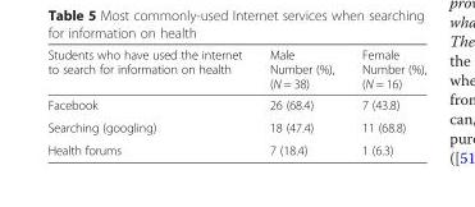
<table><thead><tr><td>Students who have used the internet to search for information on health</td><td>Male Number (%), (N = 38)</td><td>Female Number (%), (N = 16)</td></tr></thead><tbody><tr><td>Facebook</td><td>26 (68.4)</td><td>7 (43.8)</td></tr><tr><td>Searching (googling)</td><td>18 (47.4)</td><td>11 (68.8)</td></tr><tr><td>Health forums</td><td>7 (18.4)</td><td>1 (6.3)</td></tr></tbody></table>